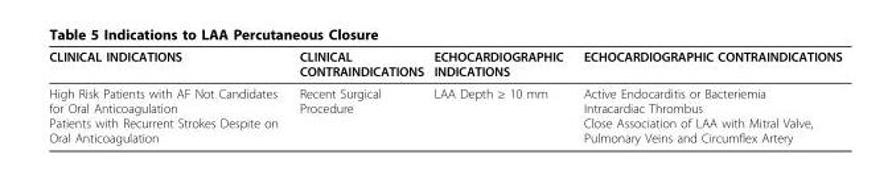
<table><thead><tr><td>CLINICAL INDICATIONS</td><td>CLINICAL CONTRAINDICATIONS</td><td>ECHOCARDIOGRAPHIC INDICATIONS</td><td>ECHOCARDIOGRAPHIC CONTRAINDICATIONS</td></tr></thead><tbody><tr><td>High Risk Patients with AF Not Candidates for Oral Anticoagulation Patients with Recurrent Strokes Despite on Oral Anticoagulation</td><td>Recent Surgical Procedure</td><td>LAA Depth ≥ 10 mm</td><td>Active Endocarditis or Bacteriemia Intracardiac Thrombus Close Association of LAA with Mitral Valve, Pulmonary Veins and Circumflex Artery</td></tr></tbody></table>